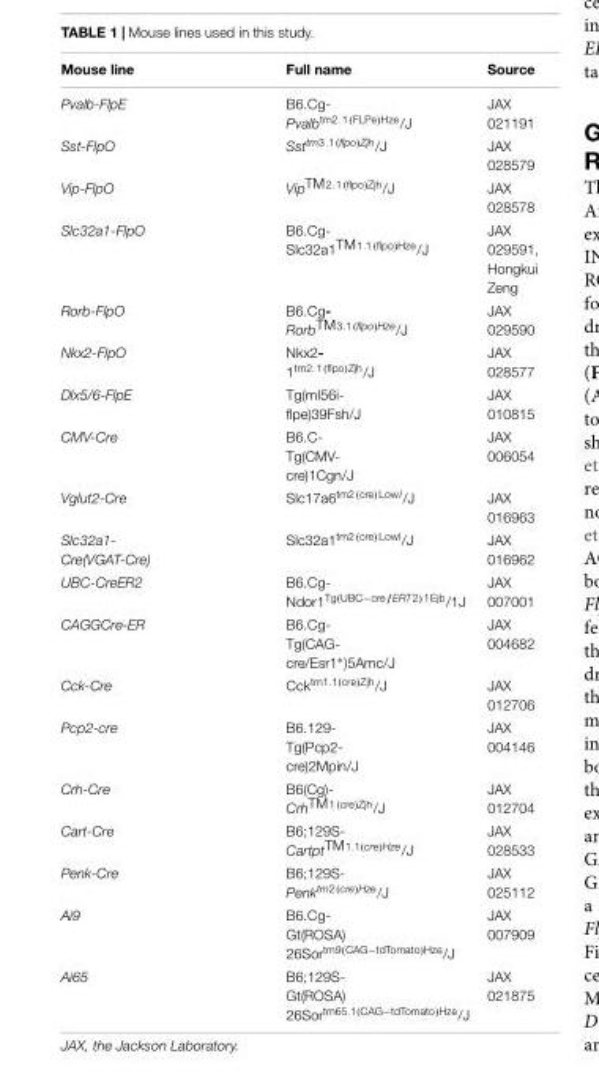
<table><thead><tr><td>Mouse line</td><td>Full name</td><td>Source</td></tr></thead><tbody><tr><td>Pvalb-FlpE</td><td>B6.Cg- Pvalb<sup>tm2.1(FLPe)Hze</sup>/J</td><td>JAX 021191</td></tr><tr><td>Sst-FlpO</td><td>Sst<sup>tm3.1(flpo)Zjh</sup>/J</td><td>JAX 028579</td></tr><tr><td>Vip-FlpO</td><td>Vip<sup>TM2.1(flpo)Zjh</sup>/J</td><td>JAX 028578</td></tr><tr><td>Slc32a1-FlpO</td><td>B6.Cg- Slc32a1<sup>TM1.1(flpo)Hze</sup>/J</td><td>JAX 029591, Hongkui Zeng</td></tr><tr><td>Rorb-FlpO</td><td>B6.Cg- Rorb<sup>TM3.1(flpo)Hze</sup>/J</td><td>JAX 029590</td></tr><tr><td>Nkx2-FlpO</td><td>Nkx2- 1<sup>tm2.1(flpo)Zjh</sup>/J</td><td>JAX 028577</td></tr><tr><td>Dlx5/6-FlpE</td><td>Tg(mI56i- flpe)39Fsh/J</td><td>JAX 010815</td></tr><tr><td>CMV-Cre</td><td>B6.C- Tg(CMV- cre)1Cgn/J</td><td>JAX 006054</td></tr><tr><td>Vglut2-Cre</td><td>Slc17a6<sup>tm2(cre)Lowl</sup>/J</td><td>JAX 016963</td></tr><tr><td>Slc32a1- Cre(VGAT-Cre)</td><td>Slc32a1<sup>tm2(cre)Lowl</sup>/J</td><td>JAX 016962</td></tr><tr><td>UBC-CreER2</td><td>B6.Cg- Ndor1<sup>Tg(UBC−cre/ERT2)1Ejb</sup>/1J</td><td>JAX 007001</td></tr><tr><td>CAGGCre-ER</td><td>B6.Cg- Tg(CAG- cre/Esr1∗)5Amc/J</td><td>JAX 004682</td></tr><tr><td>Cck-Cre</td><td>Cck<sup>tm1.1(cre)Zjh</sup>/J</td><td>JAX 012706</td></tr><tr><td>Pcp2-cre</td><td>B6.129- Tg(Pcp2- cre)2Mpin/J</td><td>JAX 004146</td></tr><tr><td>Crh-Cre</td><td>B6(Cg)- Crh<sup>TM1(cre)Zjh</sup>/J</td><td>JAX 012704</td></tr><tr><td>Cart-Cre</td><td>B6;129S- Cartpt<sup>TM1.1(cre)Hze</sup>/J</td><td>JAX 028533</td></tr><tr><td>Penk-Cre</td><td>B6;129S- Penk<sup>tm2(cre)Hze</sup>/J</td><td>JAX 025112</td></tr><tr><td>Ai9</td><td>B6.Cg- Gt(ROSA) 26Sor<sup>tm9(CAG−tdTomato)Hze</sup>/J</td><td>JAX 007909</td></tr><tr><td>Ai65</td><td>B6;129S- Gt(ROSA) 26Sor<sup>tm65.1(CAG−tdTomato)Hze</sup>/J</td><td>JAX 021875</td></tr></tbody></table>